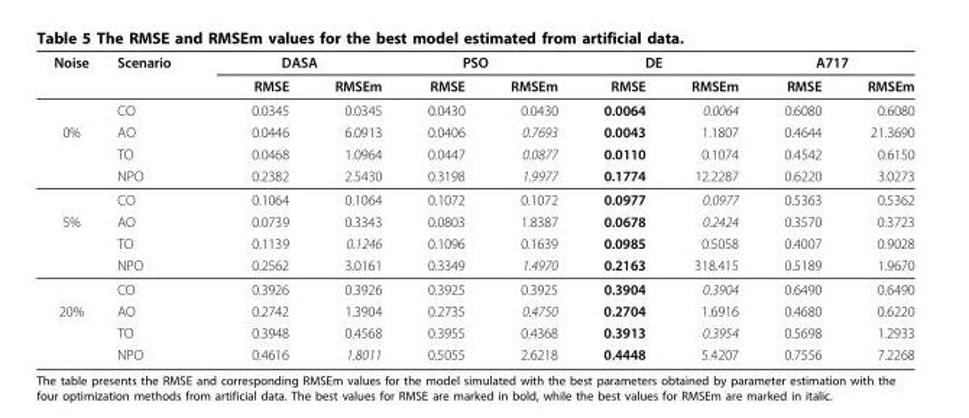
<table><thead><tr><td rowspan="2">Noise</td><td rowspan="2">Scenario</td><td colspan="2">DASA</td><td colspan="2">PSO</td><td colspan="2">DE</td><td colspan="2">A717</td></tr><tr><td>RMSE</td><td>RMSEm</td><td>RMSE</td><td>RMSEm</td><td>RMSE</td><td>RMSEm</td><td>RMSE</td><td>RMSEm</td></tr></thead><tbody><tr><td></td><td>CO</td><td>0.0345</td><td>0.0345</td><td>0.0430</td><td>0.0430</td><td>0.0064</td><td>0.0064</td><td>0.6080</td><td>0.6080</td></tr><tr><td rowspan="4">0%</td><td>AO</td><td>0.0446</td><td>6.0913</td><td>0.0406</td><td>0.7693</td><td>0.0043</td><td>1.1807</td><td>0.4644</td><td>21.3690</td></tr><tr><td>TO</td><td>0.0468</td><td>1.0964</td><td>0.0447</td><td>0.0877</td><td>0.0110</td><td>0.1074</td><td>0.4542</td><td>0.6150</td></tr><tr><td>NPO</td><td>0.2382</td><td>2.5430</td><td>0.3198</td><td>1.9977</td><td>0.1774</td><td>12.2287</td><td>0.6220</td><td>3.0273</td></tr><tr><td>CO</td><td>0.1064</td><td>0.1064</td><td>0.1072</td><td>0.1072</td><td>0.0977</td><td>0.0977</td><td>0.5363</td><td>0.5362</td></tr><tr><td rowspan="4">5%</td><td>AO</td><td>0.0739</td><td>0.3343</td><td>0.0803</td><td>1.8387</td><td>0.0678</td><td>0.2424</td><td>0.3570</td><td>0.3723</td></tr><tr><td>TO</td><td>0.1139</td><td>0.1246</td><td>0.1096</td><td>0.1639</td><td>0.0985</td><td>0.5058</td><td>0.4007</td><td>0.9028</td></tr><tr><td>NPO</td><td>0.2562</td><td>3.0161</td><td>0.3349</td><td>1.4970</td><td>0.2163</td><td>318.415</td><td>0.5189</td><td>1.9670</td></tr><tr><td>CO</td><td>0.3926</td><td>0.3926</td><td>0.3925</td><td>0.3925</td><td>0.3904</td><td>0.3904</td><td>0.6490</td><td>0.6490</td></tr><tr><td rowspan="3">20%</td><td>AO</td><td>0.2742</td><td>1.3904</td><td>0.2735</td><td>0.4750</td><td>0.2704</td><td>1.6916</td><td>0.4680</td><td>0.6220</td></tr><tr><td>TO</td><td>0.3948</td><td>0.4568</td><td>0.3955</td><td>0.4368</td><td>0.3913</td><td>0.3954</td><td>0.5698</td><td>1.2933</td></tr><tr><td>NPO</td><td>0.4616</td><td>1.8011</td><td>0.5055</td><td>2.6218</td><td>0.4448</td><td>5.4207</td><td>0.7556</td><td>7.2268</td></tr></tbody></table>